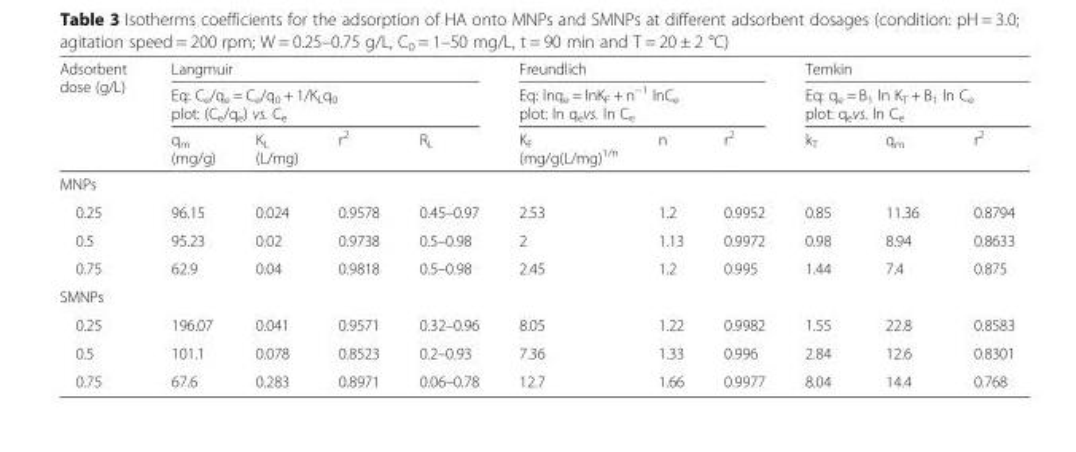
<table><thead><tr><td rowspan="3">Adsorbent dose (g/L)</td><td rowspan="2" colspan="4">Langmuir Eq: C<sub>e</sub>/q<sub>e</sub> = C<sub>e</sub>/q<sub>0</sub> + 1/K<sub>L</sub>q<sub>0</sub> plot: (C<sub>e</sub>/q<sub>e</sub>) vs. C<sub>e</sub></td><td rowspan="2" colspan="3">Freundlich Eq: lnq<sub>e</sub> = lnK<sub>F</sub> + n<sup>−1</sup> lnC<sub>e</sub> plot: ln q<sub>e</sub>vs. ln C<sub>e</sub></td><td rowspan="2" colspan="3">Temkin Eq: q<sub>e</sub> = B<sub>1</sub> ln K<sub>T</sub> + B<sub>1</sub> ln C<sub>e</sub> plot: q<sub>e</sub>vs. ln C<sub>e</sub></td></tr><tr></tr><tr><td>q<sub>m</sub> (mg/g)</td><td>K<sub>L</sub> (L/mg)</td><td>r<sup>2</sup></td><td>R<sub>L</sub></td><td>K<sub>F</sub> (mg/g(L/mg)<sup>1/n</sup></td><td>n</td><td>r<sup>2</sup></td><td>k<sub>T</sub></td><td>q<sub>m</sub></td><td>r<sup>2</sup></td></tr></thead><tbody><tr><td colspan="11">MNPs</td></tr><tr><td>0.25</td><td>96.15</td><td>0.024</td><td>0.9578</td><td>0.45–0.97</td><td>2.53</td><td>1.2</td><td>0.9952</td><td>0.85</td><td>11.36</td><td>0.8794</td></tr><tr><td>0.5</td><td>95.23</td><td>0.02</td><td>0.9738</td><td>0.5–0.98</td><td>2</td><td>1.13</td><td>0.9972</td><td>0.98</td><td>8.94</td><td>0.8633</td></tr><tr><td>0.75</td><td>62.9</td><td>0.04</td><td>0.9818</td><td>0.5–0.98</td><td>2.45</td><td>1.2</td><td>0.995</td><td>1.44</td><td>7.4</td><td>0.875</td></tr><tr><td colspan="11">SMNPs</td></tr><tr><td>0.25</td><td>196.07</td><td>0.041</td><td>0.9571</td><td>0.32–0.96</td><td>8.05</td><td>1.22</td><td>0.9982</td><td>1.55</td><td>22.8</td><td>0.8583</td></tr><tr><td>0.5</td><td>101.1</td><td>0.078</td><td>0.8523</td><td>0.2–0.93</td><td>7.36</td><td>1.33</td><td>0.996</td><td>2.84</td><td>12.6</td><td>0.8301</td></tr><tr><td>0.75</td><td>67.6</td><td>0.283</td><td>0.8971</td><td>0.06–0.78</td><td>12.7</td><td>1.66</td><td>0.9977</td><td>8.04</td><td>14.4</td><td>0.768</td></tr></tbody></table>